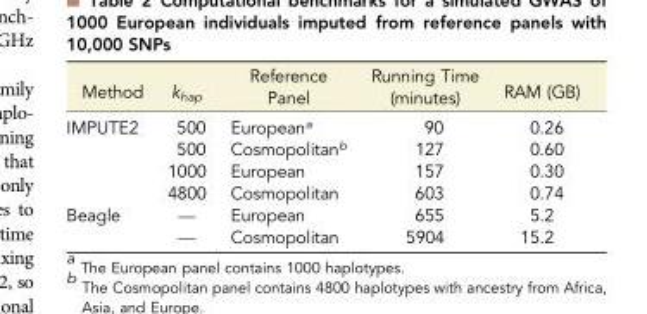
<table><thead><tr><td>Method</td><td>k<sub>hap</sub></td><td>Reference Panel</td><td>Running Time (minutes)</td><td>RAM (GB)</td></tr></thead><tbody><tr><td rowspan="4">IMPUTE2</td><td>500</td><td>European<sup>a</sup></td><td>90</td><td>0.26</td></tr><tr><td>500</td><td>Cosmopolitan<sup>b</sup></td><td>127</td><td>0.60</td></tr><tr><td>1000</td><td>European</td><td>157</td><td>0.30</td></tr><tr><td>4800</td><td>Cosmopolitan</td><td>603</td><td>0.74</td></tr><tr><td rowspan="2">Beagle</td><td>—</td><td>European</td><td>655</td><td>5.2</td></tr><tr><td>—</td><td>Cosmopolitan</td><td>5904</td><td>15.2</td></tr></tbody></table>